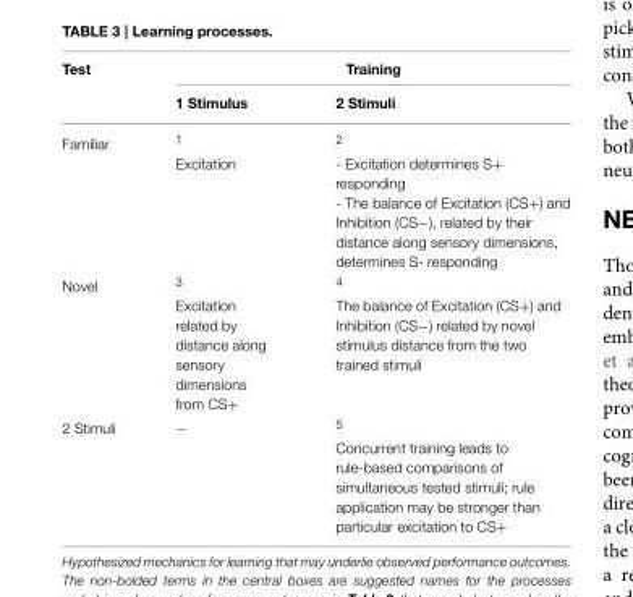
<table><thead><tr><td rowspan="2">Test</td><td colspan="2">Training</td></tr><tr><td>1 Stimulus</td><td>2 Stimuli</td></tr></thead><tbody><tr><td>Familiar</td><td><sup>1</sup> Excitation</td><td><sup>2</sup> - Excitation determines S+ responding - The balance of Excitation (CS+) and Inhibition (CS−), related by their distance along sensory dimensions, determines S- responding</td></tr><tr><td>Novel</td><td><sup>3</sup> Excitation related by distance along sensory dimensions from CS+</td><td><sup>4</sup> The balance of Excitation (CS+) and Inhibition (CS−) related by novel stimulus distance from the two trained stimuli</td></tr><tr><td>2 Stimuli</td><td>−</td><td><sup>5</sup> Concurrent training leads to rule-based comparisons of simultaneous tested stimuli; rule application may be stronger than particular excitation to CS+</td></tr></tbody></table>